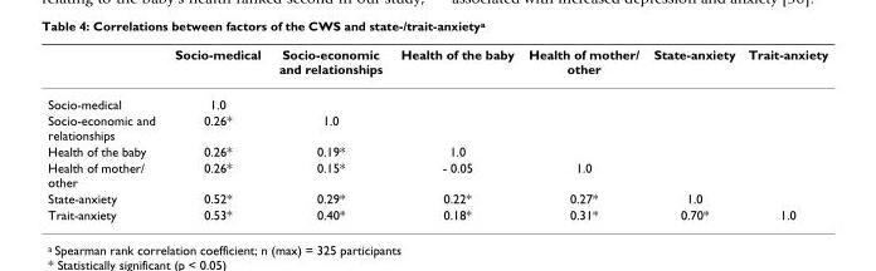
<table><thead><tr><td></td><td>Socio-medical</td><td>Socio-economic and relationships</td><td>Health of the baby</td><td>Health of mother/ other</td><td>State-anxiety</td><td>Trait-anxiety</td></tr></thead><tbody><tr><td>Socio-medical</td><td>1.0</td><td></td><td></td><td></td><td></td><td></td></tr><tr><td>Socio-economic and relationships</td><td>0.26*</td><td>1.0</td><td></td><td></td><td></td><td></td></tr><tr><td>Health of the baby</td><td>0.26*</td><td>0.19*</td><td>1.0</td><td></td><td></td><td></td></tr><tr><td>Health of mother/ other</td><td>0.26*</td><td>0.15*</td><td>- 0.05</td><td>1.0</td><td></td><td></td></tr><tr><td>State-anxiety</td><td>0.52*</td><td>0.29*</td><td>0.22*</td><td>0.27*</td><td>1.0</td><td></td></tr><tr><td>Trait-anxiety</td><td>0.53*</td><td>0.40*</td><td>0.18*</td><td>0.31*</td><td>0.70*</td><td>1.0</td></tr></tbody></table>